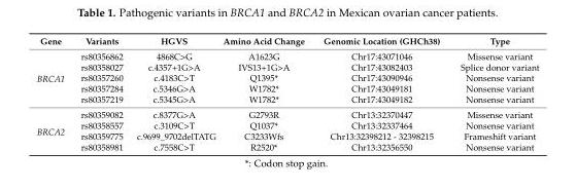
<table><thead><tr><td>Gene</td><td>Variants</td><td>HGVS</td><td>Amino Acid Change</td><td>Genomic Location (GHCh38)</td><td>Type</td></tr></thead><tbody><tr><td rowspan="5">BRCA1</td><td>rs80356862</td><td>4868C&gt;G</td><td>A1623G</td><td>Chr17:43071046</td><td>Missense variant</td></tr><tr><td>rs80358027</td><td>c.4357+1G&gt;A</td><td>IVS13+1G&gt;A</td><td>Chr17:43082403</td><td>Splice donor variant</td></tr><tr><td>rs80357260</td><td>c.4183C&gt;T</td><td>Q1395*</td><td>Chr17:43090946</td><td>Nonsense variant</td></tr><tr><td>rs80357284</td><td>c.5346G&gt;A</td><td>W1782*</td><td>Chr17:43049181</td><td>Nonsense variant</td></tr><tr><td>rs80357219</td><td>c.5345G&gt;A</td><td>W1782*</td><td>Chr17:43049182</td><td>Nonsense variant</td></tr><tr><td rowspan="4">BRCA2</td><td>rs80359082</td><td>c.8377G&gt;A</td><td>G2793R</td><td>Chr13:32370447</td><td>Missense variant</td></tr><tr><td>rs80358557</td><td>c.3109C&gt;T</td><td>Q1037*</td><td>Chr13:32337464</td><td>Nonsense variant</td></tr><tr><td>rs80359775</td><td>c.9699_9702delTATG</td><td>C3233Wfs</td><td>Chr13:32398212 - 32398215</td><td>Frameshift variant</td></tr><tr><td>rs80358981</td><td>c.7558C&gt;T</td><td>R2520*</td><td>Chr13:32356550</td><td>Nonsense variant</td></tr></tbody></table>